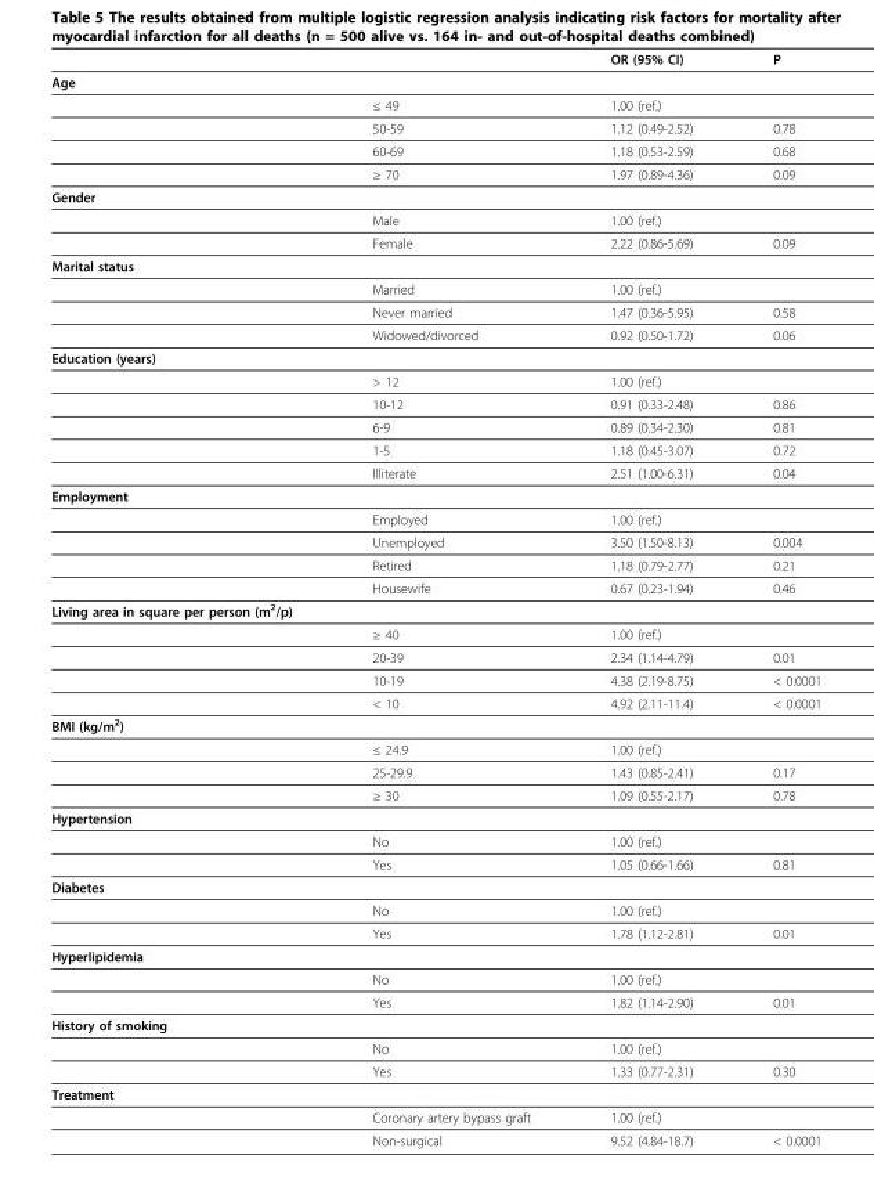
<table><thead><tr><td></td><td></td><td>OR (95% CI)</td><td>P</td></tr></thead><tbody><tr><td colspan="4">Age</td></tr><tr><td></td><td>≤ 49</td><td>1.00 (ref.)</td><td></td></tr><tr><td></td><td>50-59</td><td>1.12 (0.49-2.52)</td><td>0.78</td></tr><tr><td></td><td>60-69</td><td>1.18 (0.53-2.59)</td><td>0.68</td></tr><tr><td></td><td>≥ 70</td><td>1.97 (0.89-4.36)</td><td>0.09</td></tr><tr><td colspan="4">Gender</td></tr><tr><td></td><td>Male</td><td>1.00 (ref.)</td><td></td></tr><tr><td></td><td>Female</td><td>2.22 (0.86-5.69)</td><td>0.09</td></tr><tr><td colspan="4">Marital status</td></tr><tr><td></td><td>Married</td><td>1.00 (ref.)</td><td></td></tr><tr><td></td><td>Never married</td><td>1.47 (0.36-5.95)</td><td>0.58</td></tr><tr><td></td><td>Widowed/divorced</td><td>0.92 (0.50-1.72)</td><td>0.06</td></tr><tr><td colspan="4">Education (years)</td></tr><tr><td></td><td>&gt; 12</td><td>1.00 (ref.)</td><td></td></tr><tr><td></td><td>10-12</td><td>0.91 (0.33-2.48)</td><td>0.86</td></tr><tr><td></td><td>6-9</td><td>0.89 (0.34-2.30)</td><td>0.81</td></tr><tr><td></td><td>1-5</td><td>1.18 (0.45-3.07)</td><td>0.72</td></tr><tr><td></td><td>Illiterate</td><td>2.51 (1.00-6.31)</td><td>0.04</td></tr><tr><td colspan="4">Employment</td></tr><tr><td></td><td>Employed</td><td>1.00 (ref.)</td><td></td></tr><tr><td></td><td>Unemployed</td><td>3.50 (1.50-8.13)</td><td>0.004</td></tr><tr><td></td><td>Retired</td><td>1.18 (0.79-2.77)</td><td>0.21</td></tr><tr><td></td><td>Housewife</td><td>0.67 (0.23-1.94)</td><td>0.46</td></tr><tr><td colspan="4">Living area in square per person (m2/p)</td></tr><tr><td></td><td>≥ 40</td><td>1.00 (ref.)</td><td></td></tr><tr><td></td><td>20-39</td><td>2.34 (1.14-4.79)</td><td>0.01</td></tr><tr><td></td><td>10-19</td><td>4.38 (2.19-8.75)</td><td>&lt; 0.0001</td></tr><tr><td></td><td>&lt; 10</td><td>4.92 (2.11-11.4)</td><td>&lt; 0.0001</td></tr><tr><td colspan="4">BMI (kg/m2)</td></tr><tr><td></td><td>≤ 24.9</td><td>1.00 (ref.)</td><td></td></tr><tr><td></td><td>25-29.9</td><td>1.43 (0.85-2.41)</td><td>0.17</td></tr><tr><td></td><td>≥ 30</td><td>1.09 (0.55-2.17)</td><td>0.78</td></tr><tr><td colspan="4">Hypertension</td></tr><tr><td></td><td>No</td><td>1.00 (ref.)</td><td></td></tr><tr><td></td><td>Yes</td><td>1.05 (0.66-1.66)</td><td>0.81</td></tr><tr><td colspan="4">Diabetes</td></tr><tr><td></td><td>No</td><td>1.00 (ref.)</td><td></td></tr><tr><td></td><td>Yes</td><td>1.78 (1.12-2.81)</td><td>0.01</td></tr><tr><td colspan="4">Hyperlipidemia</td></tr><tr><td></td><td>No</td><td>1.00 (ref.)</td><td></td></tr><tr><td></td><td>Yes</td><td>1.82 (1.14-2.90)</td><td>0.01</td></tr><tr><td colspan="4">History of smoking</td></tr><tr><td></td><td>No</td><td>1.00 (ref.)</td><td></td></tr><tr><td></td><td>Yes</td><td>1.33 (0.77-2.31)</td><td>0.30</td></tr><tr><td colspan="4">Treatment</td></tr><tr><td></td><td>Coronary artery bypass graft</td><td>1.00 (ref.)</td><td></td></tr><tr><td></td><td>Non-surgical</td><td>9.52 (4.84-18.7)</td><td>&lt; 0.0001</td></tr></tbody></table>